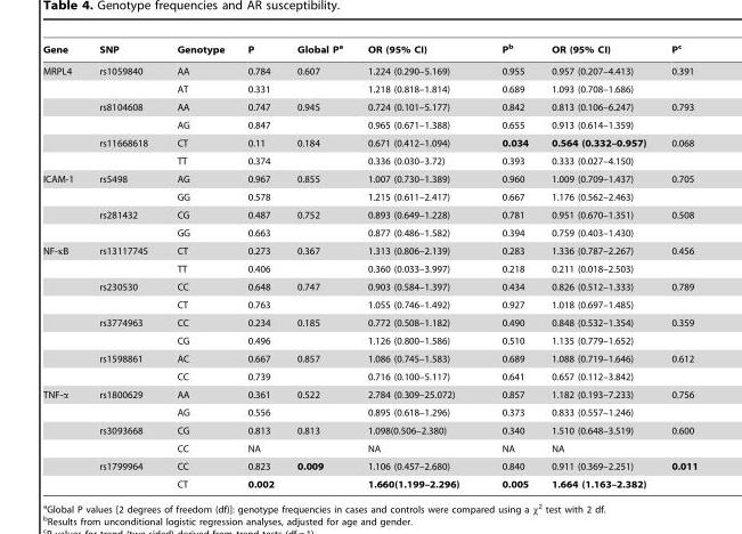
<table><thead><tr><td>Gene</td><td>SNP</td><td>Genotype</td><td>P</td><td>Global P<sup>a</sup></td><td>OR (95% CI)</td><td>P<sup>b</sup></td><td>OR (95% CI)</td><td>P<sup>c</sup></td></tr></thead><tbody><tr><td rowspan="6">MRPL4</td><td>rs1059840</td><td>AA</td><td>0.784</td><td>0.607</td><td>1.224 (0.290–5.169)</td><td>0.955</td><td>0.957 (0.207–4.413)</td><td>0.391</td></tr><tr><td></td><td>AT</td><td>0.331</td><td></td><td>1.218 (0.818–1.814)</td><td>0.689</td><td>1.093 (0.708–1.686)</td><td></td></tr><tr><td>rs8104608</td><td>AA</td><td>0.747</td><td>0.945</td><td>0.724 (0.101–5.177)</td><td>0.842</td><td>0.813 (0.106–6.247)</td><td>0.793</td></tr><tr><td></td><td>AG</td><td>0.847</td><td></td><td>0.965 (0.671–1.388)</td><td>0.655</td><td>0.913 (0.614–1.359)</td><td></td></tr><tr><td>rs11668618</td><td>CT</td><td>0.11</td><td>0.184</td><td>0.671 (0.412–1.094)</td><td>0.034</td><td>0.564 (0.332–0.957)</td><td>0.068</td></tr><tr><td></td><td>TT</td><td>0.374</td><td></td><td>0.336 (0.030–3.72)</td><td>0.393</td><td>0.333 (0.027–4.150)</td><td></td></tr><tr><td rowspan="4">ICAM-1</td><td>rs5498</td><td>AG</td><td>0.967</td><td>0.855</td><td>1.007 (0.730–1.389)</td><td>0.960</td><td>1.009 (0.709–1.437)</td><td>0.705</td></tr><tr><td></td><td>GG</td><td>0.578</td><td></td><td>1.215 (0.611–2.417)</td><td>0.667</td><td>1.176 (0.562–2.463)</td><td></td></tr><tr><td>rs281432</td><td>CG</td><td>0.487</td><td>0.752</td><td>0.893 (0.649–1.228)</td><td>0.781</td><td>0.951 (0.670–1.351)</td><td>0.508</td></tr><tr><td></td><td>GG</td><td>0.663</td><td></td><td>0.877 (0.486–1.582)</td><td>0.394</td><td>0.759 (0.403–1.430)</td><td></td></tr><tr><td rowspan="8">NF-κB</td><td>rs13117745</td><td>CT</td><td>0.273</td><td>0.367</td><td>1.313 (0.806–2.139)</td><td>0.283</td><td>1.336 (0.787–2.267)</td><td>0.456</td></tr><tr><td></td><td>TT</td><td>0.406</td><td></td><td>0.360 (0.033–3.997)</td><td>0.218</td><td>0.211 (0.018–2.503)</td><td></td></tr><tr><td>rs230530</td><td>CC</td><td>0.648</td><td>0.747</td><td>0.903 (0.584–1.397)</td><td>0.434</td><td>0.826 (0.512–1.333)</td><td>0.789</td></tr><tr><td></td><td>CT</td><td>0.763</td><td></td><td>1.055 (0.746–1.492)</td><td>0.927</td><td>1.018 (0.697–1.485)</td><td></td></tr><tr><td>rs3774963</td><td>CC</td><td>0.234</td><td>0.185</td><td>0.772 (0.508–1.182)</td><td>0.490</td><td>0.848 (0.532–1.354)</td><td>0.359</td></tr><tr><td></td><td>CG</td><td>0.496</td><td></td><td>1.126 (0.800–1.586)</td><td>0.510</td><td>1.135 (0.779–1.652)</td><td></td></tr><tr><td>rs1598861</td><td>AC</td><td>0.667</td><td>0.857</td><td>1.086 (0.745–1.583)</td><td>0.689</td><td>1.088 (0.719–1.646)</td><td>0.612</td></tr><tr><td></td><td>CC</td><td>0.739</td><td></td><td>0.716 (0.100–5.117)</td><td>0.641</td><td>0.657 (0.112–3.842)</td><td></td></tr><tr><td rowspan="6">TNF-α</td><td>rs1800629</td><td>AA</td><td>0.361</td><td>0.522</td><td>2.784 (0.309–25.072)</td><td>0.857</td><td>1.182 (0.193–7.233)</td><td>0.756</td></tr><tr><td></td><td>AG</td><td>0.556</td><td></td><td>0.895 (0.618–1.296)</td><td>0.373</td><td>0.833 (0.557–1.246)</td><td></td></tr><tr><td>rs3093668</td><td>CG</td><td>0.813</td><td>0.813</td><td>1.098(0.506–2.380)</td><td>0.340</td><td>1.510 (0.648–3.519)</td><td>0.600</td></tr><tr><td></td><td>CC</td><td>NA</td><td></td><td>NA</td><td>NA</td><td>NA</td><td></td></tr><tr><td>rs1799964</td><td>CC</td><td>0.823</td><td>0.009</td><td>1.106 (0.457–2.680)</td><td>0.840</td><td>0.911 (0.369–2.251)</td><td>0.011</td></tr><tr><td></td><td>CT</td><td>0.002</td><td></td><td>1.660(1.199–2.296)</td><td>0.005</td><td>1.664 (1.163–2.382)</td><td></td></tr></tbody></table>